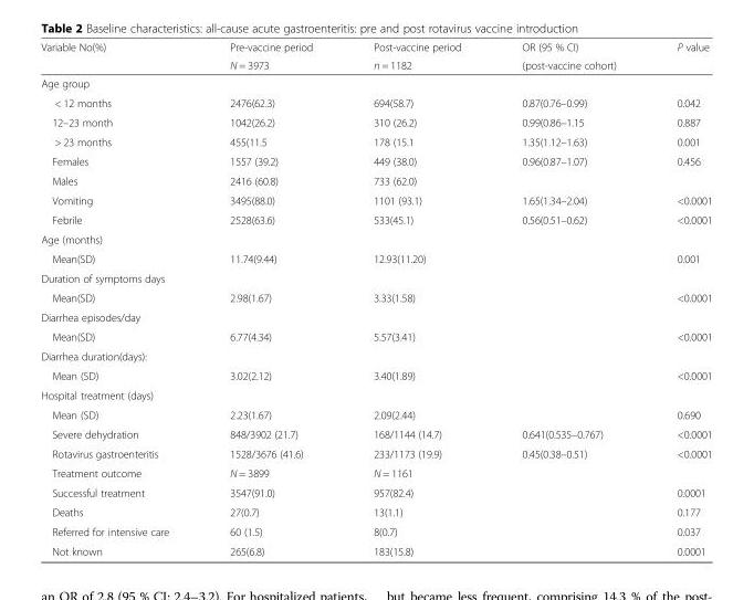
<table><thead><tr><td rowspan="2">Variable No(%)</td><td rowspan="2">Pre-vaccine period N = 3973</td><td rowspan="2">Post-vaccine period n = 1182</td><td rowspan="2">OR (95 % CI) (post-vaccine cohort)</td><td rowspan="2">P value</td></tr><tr></tr></thead><tbody><tr><td colspan="5">Age group</td></tr><tr><td>&lt; 12 months</td><td>2476(62.3)</td><td>694(58.7)</td><td>0.87(0.76–0.99)</td><td>0.042</td></tr><tr><td>12–23 month</td><td>1042(26.2)</td><td>310 (26.2)</td><td>0.99(0.86–1.15</td><td>0.887</td></tr><tr><td>&gt; 23 months</td><td>455(11.5</td><td>178 (15.1</td><td>1.35(1.12–1.63)</td><td>0.001</td></tr><tr><td>Females</td><td>1557 (39.2)</td><td>449 (38.0)</td><td>0.96(0.87–1.07)</td><td>0.456</td></tr><tr><td>Males</td><td>2416 (60.8)</td><td>733 (62.0)</td><td></td><td></td></tr><tr><td>Vomiting</td><td>3495(88.0)</td><td>1101 (93.1)</td><td>1.65(1.34–2.04)</td><td>&lt;0.0001</td></tr><tr><td>Febrile</td><td>2528(63.6)</td><td>533(45.1)</td><td>0.56(0.51–0.62)</td><td>&lt;0.0001</td></tr><tr><td colspan="5">Age (months)</td></tr><tr><td>Mean(SD)</td><td>11.74(9.44)</td><td>12.93(11.20)</td><td></td><td>0.001</td></tr><tr><td colspan="5">Duration of symptoms days</td></tr><tr><td>Mean(SD)</td><td>2.98(1.67)</td><td>3.33(1.58)</td><td></td><td>&lt;0.0001</td></tr><tr><td colspan="5">Diarrhea episodes/day</td></tr><tr><td>Mean(SD)</td><td>6.77(4.34)</td><td>5.57(3.41)</td><td></td><td>&lt;0.0001</td></tr><tr><td colspan="5">Diarrhea duration(days):</td></tr><tr><td>Mean (SD)</td><td>3.02(2.12)</td><td>3.40(1.89)</td><td></td><td>&lt;0.0001</td></tr><tr><td colspan="5">Hospital treatment (days)</td></tr><tr><td>Mean (SD)</td><td>2.23(1.67)</td><td>2.09(2.44)</td><td></td><td>0.690</td></tr><tr><td>Severe dehydration</td><td>848/3902 (21.7)</td><td>168/1144 (14.7)</td><td>0.641(0.535–0.767)</td><td>&lt;0.0001</td></tr><tr><td>Rotavirus gastroenteritis</td><td>1528/3676 (41.6)</td><td>233/1173 (19.9)</td><td>0.45(0.38–0.51)</td><td>&lt;0.0001</td></tr><tr><td>Treatment outcome</td><td>N = 3899</td><td>N = 1161</td><td></td><td></td></tr><tr><td>Successful treatment</td><td>3547(91.0)</td><td>957(82.4)</td><td></td><td>0.0001</td></tr><tr><td>Deaths</td><td>27(0.7)</td><td>13(1.1)</td><td></td><td>0.177</td></tr><tr><td>Referred for intensive care</td><td>60 (1.5)</td><td>8(0.7)</td><td></td><td>0.037</td></tr><tr><td>Not known</td><td>265(6.8)</td><td>183(15.8)</td><td></td><td>0.0001</td></tr></tbody></table>